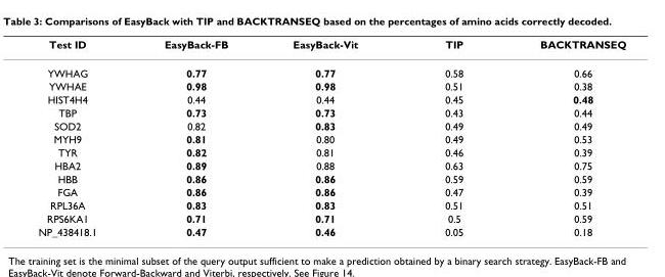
<table><thead><tr><td>Test ID</td><td>EasyBack-FB</td><td>EasyBack-Vit</td><td>TIP</td><td>BACKTRANSEQ</td></tr></thead><tbody><tr><td>YWHAG</td><td>0.77</td><td>0.77</td><td>0.58</td><td>0.66</td></tr><tr><td>YWHAE</td><td>0.98</td><td>0.98</td><td>0.51</td><td>0.38</td></tr><tr><td>HIST4H4</td><td>0.44</td><td>0.44</td><td>0.45</td><td>0.48</td></tr><tr><td>TBP</td><td>0.73</td><td>0.73</td><td>0.43</td><td>0.44</td></tr><tr><td>SOD2</td><td>0.82</td><td>0.83</td><td>0.49</td><td>0.49</td></tr><tr><td>MYH9</td><td>0.81</td><td>0.80</td><td>0.49</td><td>0.53</td></tr><tr><td>TYR</td><td>0.82</td><td>0.81</td><td>0.46</td><td>0.39</td></tr><tr><td>HBA2</td><td>0.89</td><td>0.88</td><td>0.63</td><td>0.75</td></tr><tr><td>HBB</td><td>0.86</td><td>0.86</td><td>0.59</td><td>0.59</td></tr><tr><td>FGA</td><td>0.86</td><td>0.86</td><td>0.47</td><td>0.39</td></tr><tr><td>RPL36A</td><td>0.83</td><td>0.83</td><td>0.51</td><td>0.51</td></tr><tr><td>RPS6KA1</td><td>0.71</td><td>0.71</td><td>0.5</td><td>0.59</td></tr><tr><td>NP_438418.1</td><td>0.47</td><td>0.46</td><td>0.05</td><td>0.18</td></tr></tbody></table>